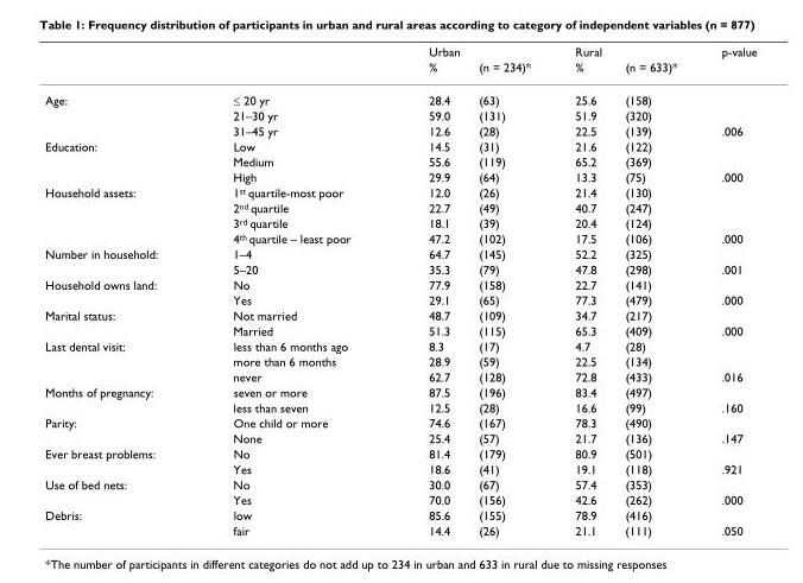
<table><thead><tr><td rowspan="2"></td><td rowspan="2"></td><td colspan="2">Urban</td><td colspan="2">Rural</td><td rowspan="2">p-value</td></tr><tr><td>%</td><td>(n = 234)*</td><td>%</td><td>(n = 633)*</td></tr></thead><tbody><tr><td rowspan="3">Age:</td><td>≤ 20 yr</td><td>28.4</td><td>(63)</td><td>25.6</td><td>(158)</td><td></td></tr><tr><td>21–30 yr</td><td>59.0</td><td>(131)</td><td>51.9</td><td>(320)</td><td></td></tr><tr><td>31–45 yr</td><td>12.6</td><td>(28)</td><td>22.5</td><td>(139)</td><td>.006</td></tr><tr><td rowspan="3">Education:</td><td>Low</td><td>14.5</td><td>(31)</td><td>21.6</td><td>(122)</td><td></td></tr><tr><td>Medium</td><td>55.6</td><td>(119)</td><td>65.2</td><td>(369)</td><td></td></tr><tr><td>High</td><td>29.9</td><td>(64)</td><td>13.3</td><td>(75)</td><td>.000</td></tr><tr><td rowspan="4">Household assets:</td><td>1<sup>st</sup> quartile-most poor</td><td>12.0</td><td>(26)</td><td>21.4</td><td>(130)</td><td></td></tr><tr><td>2<sup>nd</sup> quartile</td><td>22.7</td><td>(49)</td><td>40.7</td><td>(247)</td><td></td></tr><tr><td>3<sup>rd</sup> quartile</td><td>18.1</td><td>(39)</td><td>20.4</td><td>(124)</td><td></td></tr><tr><td>4<sup>th</sup> quartile – least poor</td><td>47.2</td><td>(102)</td><td>17.5</td><td>(106)</td><td>.000</td></tr><tr><td rowspan="2">Number in household:</td><td>1–4</td><td>64.7</td><td>(145)</td><td>52.2</td><td>(325)</td><td></td></tr><tr><td>5–20</td><td>35.3</td><td>(79)</td><td>47.8</td><td>(298)</td><td>.001</td></tr><tr><td rowspan="2">Household owns land:</td><td>No</td><td>77.9</td><td>(158)</td><td>22.7</td><td>(141)</td><td></td></tr><tr><td>Yes</td><td>29.1</td><td>(65)</td><td>77.3</td><td>(479)</td><td>.000</td></tr><tr><td rowspan="2">Marital status:</td><td>Not married</td><td>48.7</td><td>(109)</td><td>34.7</td><td>(217)</td><td></td></tr><tr><td>Married</td><td>51.3</td><td>(115)</td><td>65.3</td><td>(409)</td><td>.000</td></tr><tr><td rowspan="3">Last dental visit:</td><td>less than 6 months ago</td><td>8.3</td><td>(17)</td><td>4.7</td><td>(28)</td><td></td></tr><tr><td>more than 6 months</td><td>28.9</td><td>(59)</td><td>22.5</td><td>(134)</td><td></td></tr><tr><td>never</td><td>62.7</td><td>(128)</td><td>72.8</td><td>(433)</td><td>.016</td></tr><tr><td rowspan="2">Months of pregnancy:</td><td>seven or more</td><td>87.5</td><td>(196)</td><td>83.4</td><td>(497)</td><td></td></tr><tr><td>less than seven</td><td>12.5</td><td>(28)</td><td>16.6</td><td>(99)</td><td>.160</td></tr><tr><td rowspan="2">Parity:</td><td>One child or more</td><td>74.6</td><td>(167)</td><td>78.3</td><td>(490)</td><td></td></tr><tr><td>None</td><td>25.4</td><td>(57)</td><td>21.7</td><td>(136)</td><td>.147</td></tr><tr><td rowspan="2">Ever breast problems:</td><td>No</td><td>81.4</td><td>(179)</td><td>80.9</td><td>(501)</td><td></td></tr><tr><td>Yes</td><td>18.6</td><td>(41)</td><td>19.1</td><td>(118)</td><td>.921</td></tr><tr><td rowspan="2">Use of bed nets:</td><td>No</td><td>30.0</td><td>(67)</td><td>57.4</td><td>(353)</td><td></td></tr><tr><td>Yes</td><td>70.0</td><td>(156)</td><td>42.6</td><td>(262)</td><td>.000</td></tr><tr><td rowspan="2">Debris:</td><td>low</td><td>85.6</td><td>(155)</td><td>78.9</td><td>(416)</td><td></td></tr><tr><td>fair</td><td>14.4</td><td>(26)</td><td>21.1</td><td>(111)</td><td>.050</td></tr></tbody></table>